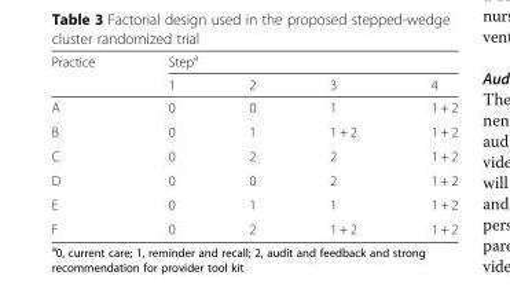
<table><thead><tr><td rowspan="2">Practice</td><td colspan="4">Step<sup>a</sup></td></tr><tr><td>1</td><td>2</td><td>3</td><td>4</td></tr></thead><tbody><tr><td>A</td><td>0</td><td>0</td><td>1</td><td>1 + 2</td></tr><tr><td>B</td><td>0</td><td>1</td><td>1 + 2</td><td>1 + 2</td></tr><tr><td>C</td><td>0</td><td>2</td><td>2</td><td>1 + 2</td></tr><tr><td>D</td><td>0</td><td>0</td><td>2</td><td>1 + 2</td></tr><tr><td>E</td><td>0</td><td>1</td><td>1</td><td>1 + 2</td></tr><tr><td>F</td><td>0</td><td>2</td><td>1 + 2</td><td>1 + 2</td></tr></tbody></table>